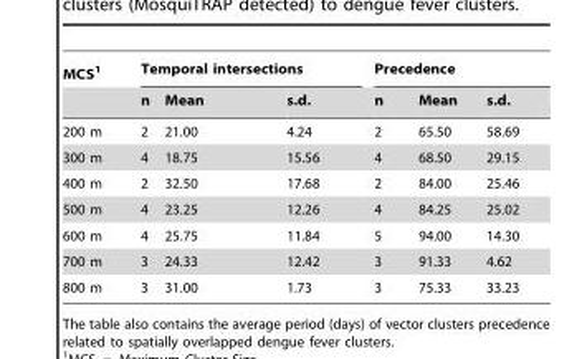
<table><thead><tr><td rowspan="2">MCS<sup>1</sup></td><td colspan="3">Temporal intersections</td><td colspan="3">Precedence</td></tr><tr><td>n</td><td>Mean</td><td>s.d.</td><td>n</td><td>Mean</td><td>s.d.</td></tr></thead><tbody><tr><td>200 m</td><td>2</td><td>21.00</td><td>4.24</td><td>2</td><td>65.50</td><td>58.69</td></tr><tr><td>300 m</td><td>4</td><td>18.75</td><td>15.56</td><td>4</td><td>68.50</td><td>29.15</td></tr><tr><td>400 m</td><td>2</td><td>32.50</td><td>17.68</td><td>2</td><td>84.00</td><td>25.46</td></tr><tr><td>500 m</td><td>4</td><td>23.25</td><td>12.26</td><td>4</td><td>84.25</td><td>25.02</td></tr><tr><td>600 m</td><td>4</td><td>25.75</td><td>11.84</td><td>5</td><td>94.00</td><td>14.30</td></tr><tr><td>700 m</td><td>3</td><td>24.33</td><td>12.42</td><td>3</td><td>91.33</td><td>4.62</td></tr><tr><td>800 m</td><td>3</td><td>31.00</td><td>1.73</td><td>3</td><td>75.33</td><td>33.23</td></tr></tbody></table>